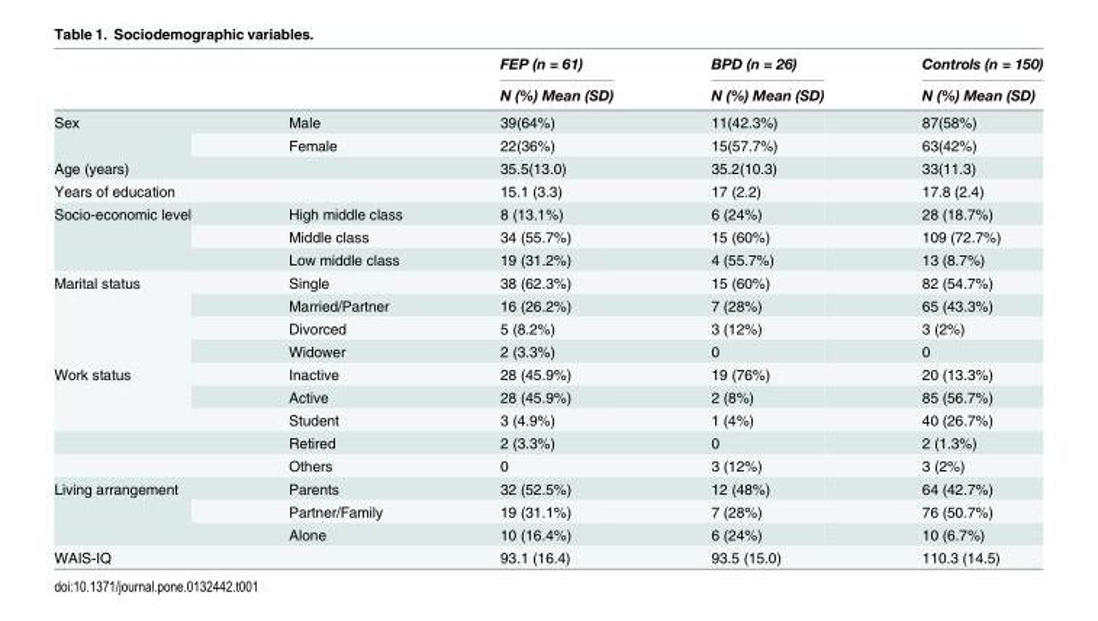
<table><thead><tr><td rowspan="2"></td><td rowspan="2"></td><td rowspan="2">FEP (n = 61) N (%) Mean (SD)</td><td rowspan="2">BPD (n = 26) N (%) Mean (SD)</td><td rowspan="2">Controls (n = 150) N (%) Mean (SD)</td></tr><tr></tr></thead><tbody><tr><td rowspan="2">Sex</td><td>Male</td><td>39(64%)</td><td>11(42.3%)</td><td>87(58%)</td></tr><tr><td>Female</td><td>22(36%)</td><td>15(57.7%)</td><td>63(42%)</td></tr><tr><td>Age (years)</td><td></td><td>35.5(13.0)</td><td>35.2(10.3)</td><td>33(11.3)</td></tr><tr><td>Years of education</td><td></td><td>15.1 (3.3)</td><td>17 (2.2)</td><td>17.8 (2.4)</td></tr><tr><td rowspan="3">Socio-economic level</td><td>High middle class</td><td>8 (13.1%)</td><td>6 (24%)</td><td>28 (18.7%)</td></tr><tr><td>Middle class</td><td>34 (55.7%)</td><td>15 (60%)</td><td>109 (72.7%)</td></tr><tr><td>Low middle class</td><td>19 (31.2%)</td><td>4 (55.7%)</td><td>13 (8.7%)</td></tr><tr><td rowspan="4">Marital status</td><td>Single</td><td>38 (62.3%)</td><td>15 (60%)</td><td>82 (54.7%)</td></tr><tr><td>Married/Partner</td><td>16 (26.2%)</td><td>7 (28%)</td><td>65 (43.3%)</td></tr><tr><td>Divorced</td><td>5 (8.2%)</td><td>3 (12%)</td><td>3 (2%)</td></tr><tr><td>Widower</td><td>2 (3.3%)</td><td>0</td><td>0</td></tr><tr><td rowspan="5">Work status</td><td>Inactive</td><td>28 (45.9%)</td><td>19 (76%)</td><td>20 (13.3%)</td></tr><tr><td>Active</td><td>28 (45.9%)</td><td>2 (8%)</td><td>85 (56.7%)</td></tr><tr><td>Student</td><td>3 (4.9%)</td><td>1 (4%)</td><td>40 (26.7%)</td></tr><tr><td>Retired</td><td>2 (3.3%)</td><td>0</td><td>2 (1.3%)</td></tr><tr><td>Others</td><td>0</td><td>3 (12%)</td><td>3 (2%)</td></tr><tr><td rowspan="3">Living arrangement</td><td>Parents</td><td>32 (52.5%)</td><td>12 (48%)</td><td>64 (42.7%)</td></tr><tr><td>Partner/Family</td><td>19 (31.1%)</td><td>7 (28%)</td><td>76 (50.7%)</td></tr><tr><td>Alone</td><td>10 (16.4%)</td><td>6 (24%)</td><td>10 (6.7%)</td></tr><tr><td>WAIS-IQ</td><td></td><td>93.1 (16.4)</td><td>93.5 (15.0)</td><td>110.3 (14.5)</td></tr></tbody></table>